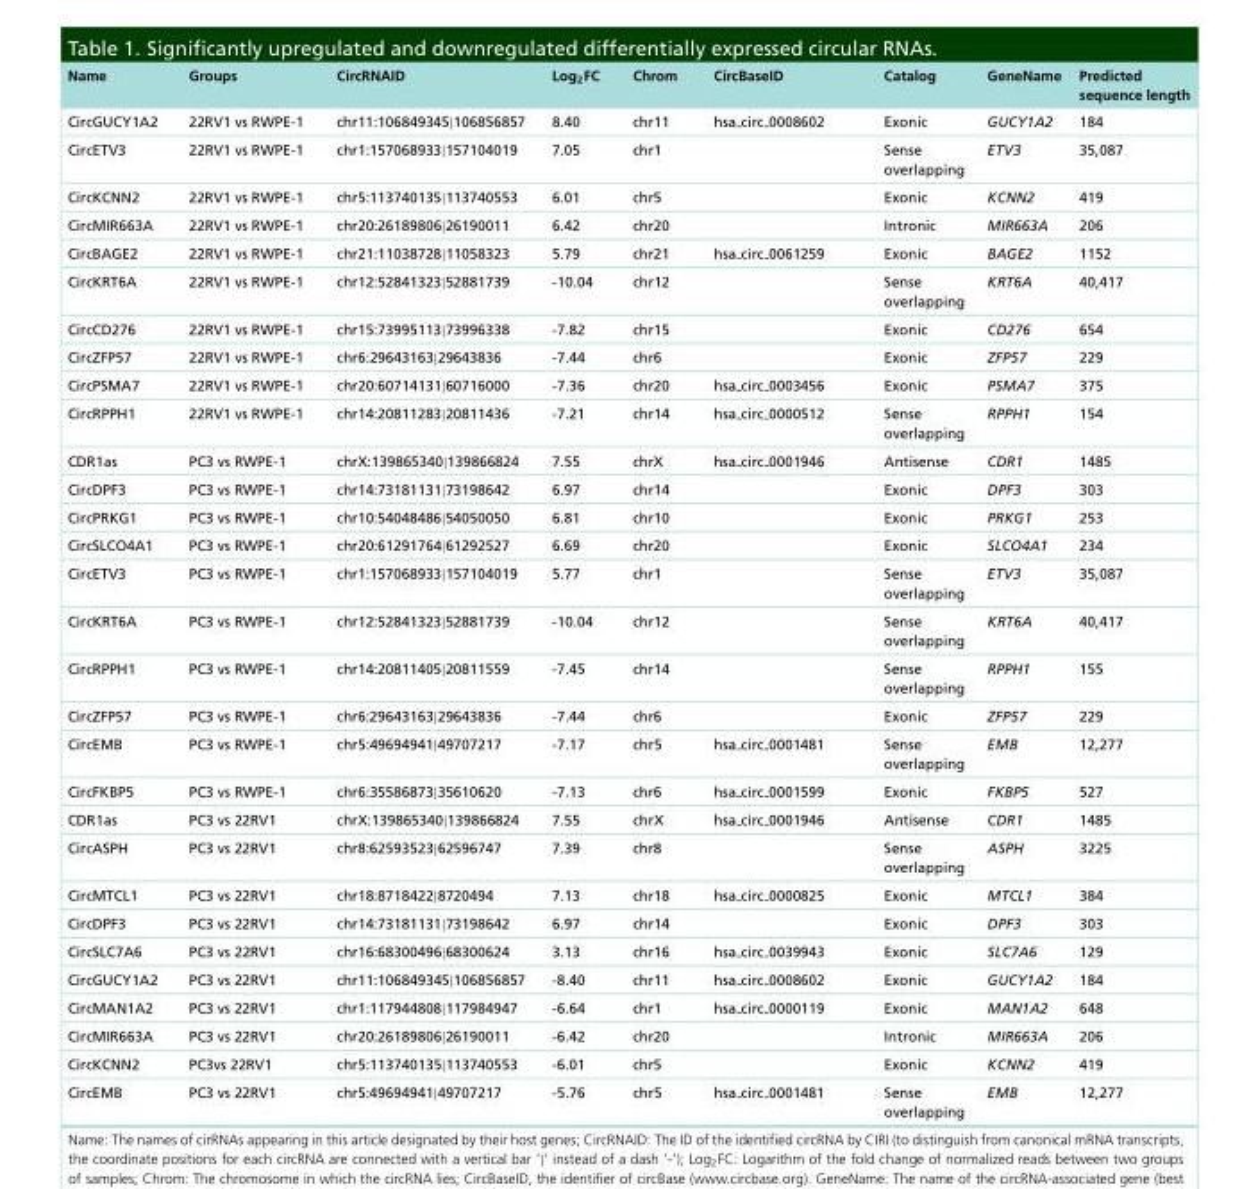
<table><thead><tr><td>Name</td><td>Groups</td><td>CircRNAID</td><td>Log<sub>2</sub>FC</td><td>Chrom</td><td>CircBaseID</td><td>Catalog</td><td>GeneName</td><td>Predicted sequence length</td></tr></thead><tbody><tr><td>CircGUCY1A2</td><td>22RV1 vs RWPE-1</td><td>chr11:106849345|106856857</td><td>8.40</td><td>chr11</td><td>hsa <sub>circ</sub> 0008602</td><td>Exonic</td><td>GUCY1A2</td><td>184</td></tr><tr><td>CircETV3</td><td>22RV1 vs RWPE-1</td><td>chr1:157068933|157104019</td><td>7.05</td><td>chr1</td><td></td><td>Sense overlapping</td><td>ETV3</td><td>35,087</td></tr><tr><td>CircKCNN2</td><td>22RV1 vs RWPE-1</td><td>chr5:113740135|113740553</td><td>6.01</td><td>chr5</td><td></td><td>Exonic</td><td>KCNN2</td><td>419</td></tr><tr><td>CircMIR663A</td><td>22RV1 vs RWPE-1</td><td>chr20:26189806|26190011</td><td>6.42</td><td>chr20</td><td></td><td>Intronic</td><td>MIR663A</td><td>206</td></tr><tr><td>CircBAGE2</td><td>22RV1 vs RWPE-1</td><td>chr21:11038728|11058323</td><td>5.79</td><td>chr21</td><td>hsa <sub>circ</sub> 0061259</td><td>Exonic</td><td>BAGE2</td><td>1152</td></tr><tr><td>CircKRT6A</td><td>22RV1 vs RWPE-1</td><td>chr12:52841323|52881739</td><td>-10.04</td><td>chr12</td><td></td><td>Sense overlapping</td><td>KRT6A</td><td>40,417</td></tr><tr><td>CircCD276</td><td>22RV1 vs RWPE-1</td><td>chr15:73995113|73996338</td><td>-7.82</td><td>chr15</td><td></td><td>Exonic</td><td>CD276</td><td>654</td></tr><tr><td>CircZFP57</td><td>22RV1 vs RWPE-1</td><td>chr6:29643163|29643836</td><td>-7.44</td><td>chr6</td><td></td><td>Exonic</td><td>ZFP57</td><td>229</td></tr><tr><td>CircPSMA7</td><td>22RV1 vs RWPE-1</td><td>chr20:60714131|60716000</td><td>-7.36</td><td>chr20</td><td>hsa <sub>circ</sub> 0003456</td><td>Exonic</td><td>PSMA7</td><td>375</td></tr><tr><td>CircRPPH1</td><td>22RV1 vs RWPE-1</td><td>chr14:20811283|20811436</td><td>-7.21</td><td>chr14</td><td>hsa <sub>circ</sub> 0000512</td><td>Sense overlapping</td><td>RPPH1</td><td>154</td></tr><tr><td>CDR1as</td><td>PC3 vs RWPE-1</td><td>chrX:139865340|139866824</td><td>7.55</td><td>chrX</td><td>hsa <sub>circ</sub> 0001946</td><td>Antisense</td><td>CDR1</td><td>1485</td></tr><tr><td>CircDPF3</td><td>PC3 vs RWPE-1</td><td>chr14:73181131|73198642</td><td>6.97</td><td>chr14</td><td></td><td>Exonic</td><td>DPF3</td><td>303</td></tr><tr><td>CircPRKG1</td><td>PC3 vs RWPE-1</td><td>chr10:54048486|54050050</td><td>6.81</td><td>chr10</td><td></td><td>Exonic</td><td>PRKG1</td><td>253</td></tr><tr><td>CircSLCO4A1</td><td>PC3 vs RWPE-1</td><td>chr20:61291764|61292527</td><td>6.69</td><td>chr20</td><td></td><td>Exonic</td><td>SLCO4A1</td><td>234</td></tr><tr><td>CircETV3</td><td>PC3 vs RWPE-1</td><td>chr1:157068933|157104019</td><td>5.77</td><td>chr1</td><td></td><td>Sense overlapping</td><td>ETV3</td><td>35,087</td></tr><tr><td>CircKRT6A</td><td>PC3 vs RWPE-1</td><td>chr12:52841323|52881739</td><td>-10.04</td><td>chr12</td><td></td><td>Sense overlapping</td><td>KRT6A</td><td>40,417</td></tr><tr><td>CircRPPH1</td><td>PC3 vs RWPE-1</td><td>chr14:20811405|20811559</td><td>-7.45</td><td>chr14</td><td></td><td>Sense overlapping</td><td>RPPH1</td><td>155</td></tr><tr><td>CircZFP57</td><td>PC3 vs RWPE-1</td><td>chr6:29643163|29643836</td><td>-7.44</td><td>chr6</td><td></td><td>Exonic</td><td>ZFP57</td><td>229</td></tr><tr><td>CircEMB</td><td>PC3 vs RWPE-1</td><td>chr5:49694941|49707217</td><td>-7.17</td><td>chr5</td><td>hsa <sub>circ</sub> 0001481</td><td>Sense overlapping</td><td>EMB</td><td>12,277</td></tr><tr><td>CircFKBP5</td><td>PC3 vs RWPE-1</td><td>chr6:35586873|35610620</td><td>-7.13</td><td>chr6</td><td>hsa <sub>circ</sub> 0001599</td><td>Exonic</td><td>FKBP5</td><td>527</td></tr><tr><td>CDR1as</td><td>PC3 vs 22RV1</td><td>chrX:139865340|139866824</td><td>7.55</td><td>chrX</td><td>hsa <sub>circ</sub> 0001946</td><td>Antisense</td><td>CDR1</td><td>1485</td></tr><tr><td>CircASPH</td><td>PC3 vs 22RV1</td><td>chr8:62593523|62596747</td><td>7.39</td><td>chr8</td><td></td><td>Sense overlapping</td><td>ASPH</td><td>3225</td></tr><tr><td>CircMTCL1</td><td>PC3 vs 22RV1</td><td>chr18:8718422|8720494</td><td>7.13</td><td>chr18</td><td>hsa <sub>circ</sub> 0000825</td><td>Exonic</td><td>MTCL1</td><td>384</td></tr><tr><td>CircDPF3</td><td>PC3 vs 22RV1</td><td>chr14:73181131|73198642</td><td>6.97</td><td>chr14</td><td></td><td>Exonic</td><td>DPF3</td><td>303</td></tr><tr><td>CircSLC7A6</td><td>PC3 vs 22RV1</td><td>chr16:68300496|68300624</td><td>3.13</td><td>chr16</td><td>hsa <sub>circ</sub> 0039943</td><td>Exonic</td><td>SLC7A6</td><td>129</td></tr><tr><td>CircGUCY1A2</td><td>PC3 vs 22RV1</td><td>chr11:106849345|106856857</td><td>-8.40</td><td>chr11</td><td>hsa <sub>circ</sub> 0008602</td><td>Exonic</td><td>GUCY1A2</td><td>184</td></tr><tr><td>CircMAN1A2</td><td>PC3 vs 22RV1</td><td>chr1:117944808|117984947</td><td>-6.64</td><td>chr1</td><td>hsa <sub>circ</sub> 0000119</td><td>Exonic</td><td>MAN1A2</td><td>648</td></tr><tr><td>CircMIR663A</td><td>PC3 vs 22RV1</td><td>chr20:26189806|26190011</td><td>-6.42</td><td>chr20</td><td></td><td>Intronic</td><td>MIR663A</td><td>206</td></tr><tr><td>CircKCNN2</td><td>PC3vs 22RV1</td><td>chr5:113740135|113740553</td><td>-6.01</td><td>chr5</td><td></td><td>Exonic</td><td>KCNN2</td><td>419</td></tr><tr><td>CircEMB</td><td>PC3 vs 22RV1</td><td>chr5:49694941|49707217</td><td>-5.76</td><td>chr5</td><td>hsa <sub>circ</sub> 0001481</td><td>Sense overlapping</td><td>EMB</td><td>12,277</td></tr></tbody></table>